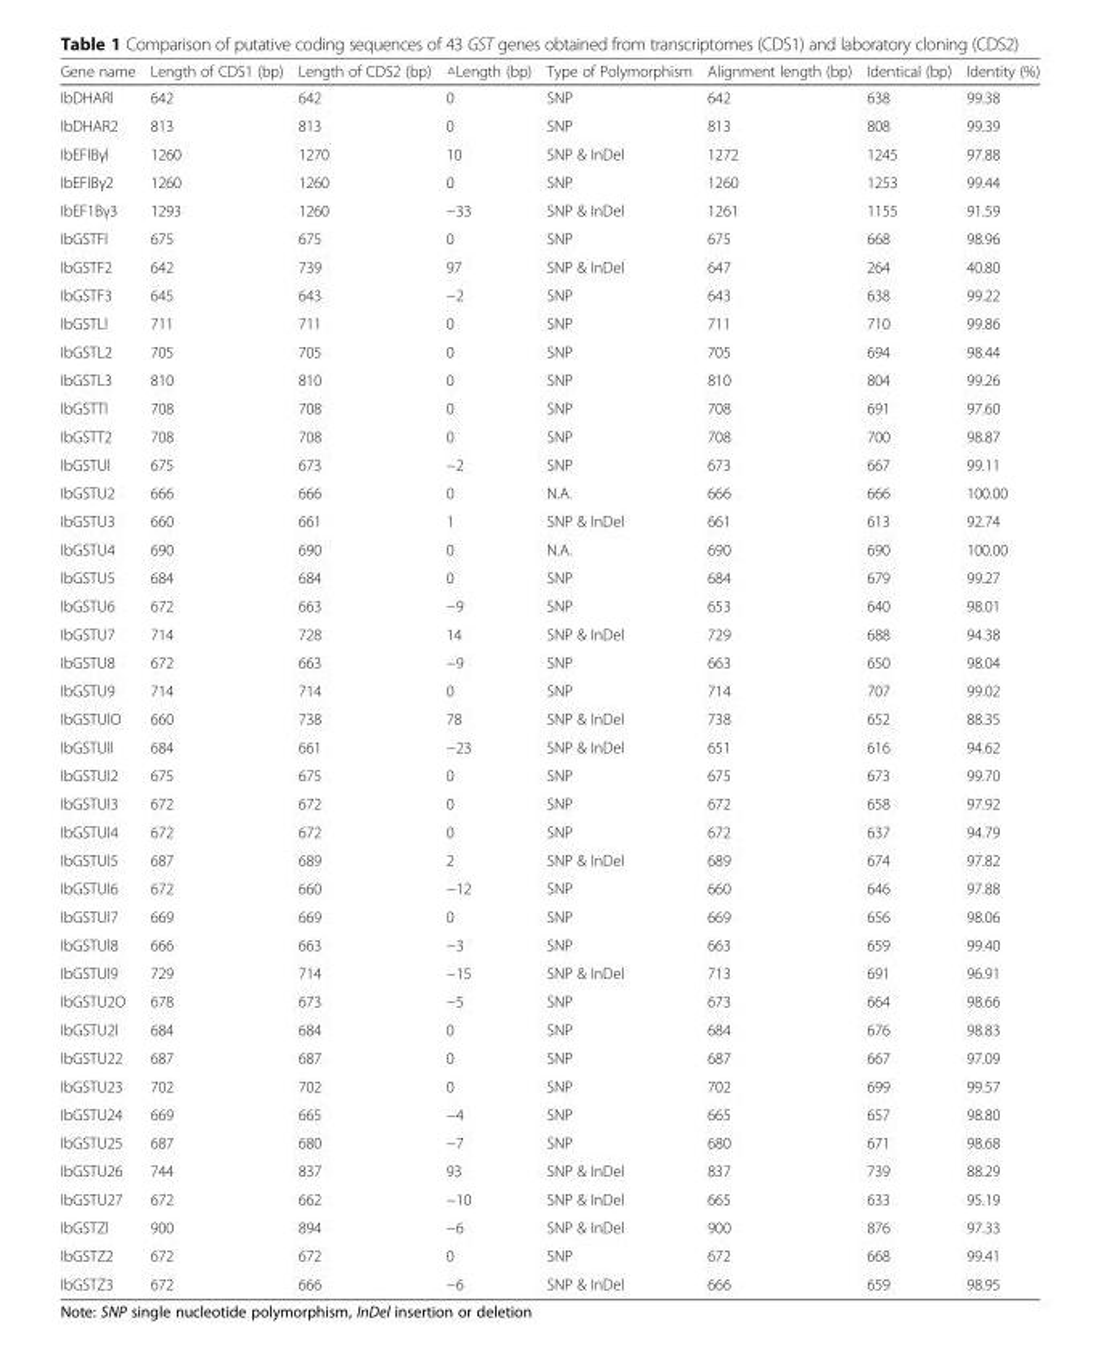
<table><thead><tr><td>Gene name</td><td>Length of CDS1 (bp)</td><td>Length of CDS2 (bp)</td><td>△Length (bp)</td><td>Type of Polymorphism</td><td>Alignment length (bp)</td><td>Identical (bp)</td><td>Identity (%)</td></tr></thead><tbody><tr><td>IbDHARl</td><td>642</td><td>642</td><td>0</td><td>SNP</td><td>642</td><td>638</td><td>99.38</td></tr><tr><td>IbDHAR2</td><td>813</td><td>813</td><td>0</td><td>SNP</td><td>813</td><td>808</td><td>99.39</td></tr><tr><td>IbEFlBγl</td><td>1260</td><td>1270</td><td>10</td><td>SNP &amp; InDel</td><td>1272</td><td>1245</td><td>97.88</td></tr><tr><td>IbEFlBγ2</td><td>1260</td><td>1260</td><td>0</td><td>SNP</td><td>1260</td><td>1253</td><td>99.44</td></tr><tr><td>IbEF1Bγ3</td><td>1293</td><td>1260</td><td>−33</td><td>SNP &amp; InDel</td><td>1261</td><td>1155</td><td>91.59</td></tr><tr><td>IbGSTFl</td><td>675</td><td>675</td><td>0</td><td>SNP</td><td>675</td><td>668</td><td>98.96</td></tr><tr><td>IbGSTF2</td><td>642</td><td>739</td><td>97</td><td>SNP &amp; InDel</td><td>647</td><td>264</td><td>40.80</td></tr><tr><td>IbGSTF3</td><td>645</td><td>643</td><td>−2</td><td>SNP</td><td>643</td><td>638</td><td>99.22</td></tr><tr><td>IbGSTLl</td><td>711</td><td>711</td><td>0</td><td>SNP</td><td>711</td><td>710</td><td>99.86</td></tr><tr><td>IbGSTL2</td><td>705</td><td>705</td><td>0</td><td>SNP</td><td>705</td><td>694</td><td>98.44</td></tr><tr><td>IbGSTL3</td><td>810</td><td>810</td><td>0</td><td>SNP</td><td>810</td><td>804</td><td>99.26</td></tr><tr><td>IbGSTTl</td><td>708</td><td>708</td><td>0</td><td>SNP</td><td>708</td><td>691</td><td>97.60</td></tr><tr><td>IbGSTT2</td><td>708</td><td>708</td><td>0</td><td>SNP</td><td>708</td><td>700</td><td>98.87</td></tr><tr><td>IbGSTUl</td><td>675</td><td>673</td><td>−2</td><td>SNP</td><td>673</td><td>667</td><td>99.11</td></tr><tr><td>IbGSTU2</td><td>666</td><td>666</td><td>0</td><td>N.A.</td><td>666</td><td>666</td><td>100.00</td></tr><tr><td>IbGSTU3</td><td>660</td><td>661</td><td>1</td><td>SNP &amp; InDel</td><td>661</td><td>613</td><td>92.74</td></tr><tr><td>IbGSTU4</td><td>690</td><td>690</td><td>0</td><td>N.A.</td><td>690</td><td>690</td><td>100.00</td></tr><tr><td>IbGSTU5</td><td>684</td><td>684</td><td>0</td><td>SNP</td><td>684</td><td>679</td><td>99.27</td></tr><tr><td>IbGSTU6</td><td>672</td><td>663</td><td>−9</td><td>SNP</td><td>653</td><td>640</td><td>98.01</td></tr><tr><td>IbGSTU7</td><td>714</td><td>728</td><td>14</td><td>SNP &amp; InDel</td><td>729</td><td>688</td><td>94.38</td></tr><tr><td>IbGSTU8</td><td>672</td><td>663</td><td>−9</td><td>SNP</td><td>663</td><td>650</td><td>98.04</td></tr><tr><td>IbGSTU9</td><td>714</td><td>714</td><td>0</td><td>SNP</td><td>714</td><td>707</td><td>99.02</td></tr><tr><td>IbGSTUlO</td><td>660</td><td>738</td><td>78</td><td>SNP &amp; InDel</td><td>738</td><td>652</td><td>88.35</td></tr><tr><td>IbGSTUll</td><td>684</td><td>661</td><td>−23</td><td>SNP &amp; InDel</td><td>651</td><td>616</td><td>94.62</td></tr><tr><td>IbGSTUl2</td><td>675</td><td>675</td><td>0</td><td>SNP</td><td>675</td><td>673</td><td>99.70</td></tr><tr><td>IbGSTUl3</td><td>672</td><td>672</td><td>0</td><td>SNP</td><td>672</td><td>658</td><td>97.92</td></tr><tr><td>IbGSTUl4</td><td>672</td><td>672</td><td>0</td><td>SNP</td><td>672</td><td>637</td><td>94.79</td></tr><tr><td>IbGSTUl5</td><td>687</td><td>689</td><td>2</td><td>SNP &amp; InDel</td><td>689</td><td>674</td><td>97.82</td></tr><tr><td>IbGSTUl6</td><td>672</td><td>660</td><td>−12</td><td>SNP</td><td>660</td><td>646</td><td>97.88</td></tr><tr><td>IbGSTUl7</td><td>669</td><td>669</td><td>0</td><td>SNP</td><td>669</td><td>656</td><td>98.06</td></tr><tr><td>IbGSTUl8</td><td>666</td><td>663</td><td>−3</td><td>SNP</td><td>663</td><td>659</td><td>99.40</td></tr><tr><td>IbGSTUl9</td><td>729</td><td>714</td><td>−15</td><td>SNP &amp; InDel</td><td>713</td><td>691</td><td>96.91</td></tr><tr><td>IbGSTU2O</td><td>678</td><td>673</td><td>−5</td><td>SNP</td><td>673</td><td>664</td><td>98.66</td></tr><tr><td>IbGSTU2l</td><td>684</td><td>684</td><td>0</td><td>SNP</td><td>684</td><td>676</td><td>98.83</td></tr><tr><td>IbGSTU22</td><td>687</td><td>687</td><td>0</td><td>SNP</td><td>687</td><td>667</td><td>97.09</td></tr><tr><td>IbGSTU23</td><td>702</td><td>702</td><td>0</td><td>SNP</td><td>702</td><td>699</td><td>99.57</td></tr><tr><td>IbGSTU24</td><td>669</td><td>665</td><td>−4</td><td>SNP</td><td>665</td><td>657</td><td>98.80</td></tr><tr><td>IbGSTU25</td><td>687</td><td>680</td><td>−7</td><td>SNP</td><td>680</td><td>671</td><td>98.68</td></tr><tr><td>IbGSTU26</td><td>744</td><td>837</td><td>93</td><td>SNP &amp; InDel</td><td>837</td><td>739</td><td>88.29</td></tr><tr><td>IbGSTU27</td><td>672</td><td>662</td><td>−10</td><td>SNP &amp; InDel</td><td>665</td><td>633</td><td>95.19</td></tr><tr><td>IbGSTZl</td><td>900</td><td>894</td><td>−6</td><td>SNP &amp; InDel</td><td>900</td><td>876</td><td>97.33</td></tr><tr><td>IbGSTZ2</td><td>672</td><td>672</td><td>0</td><td>SNP</td><td>672</td><td>668</td><td>99.41</td></tr><tr><td>IbGSTZ3</td><td>672</td><td>666</td><td>−6</td><td>SNP &amp; InDel</td><td>666</td><td>659</td><td>98.95</td></tr></tbody></table>